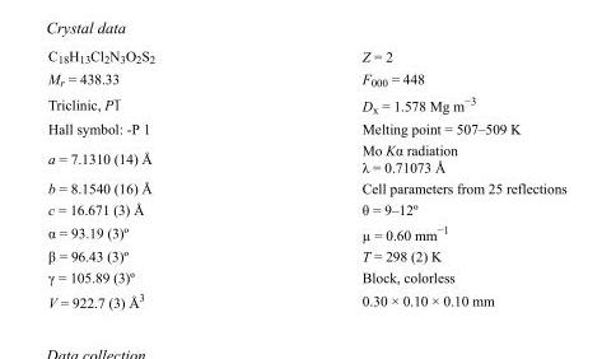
<table><tbody><tr><td>C<sub>18</sub>H<sub>13</sub>Cl<sub>2</sub>N<sub>3</sub>O<sub>2</sub>S<sub>2</sub></td><td>Z = 2</td></tr><tr><td>M<sub>r</sub> = 438.33</td><td>F<sub>000</sub> = 448</td></tr><tr><td>Triclinic, P1</td><td>D<sub>x</sub> = 1.578 Mg m<sup>−3</sup></td></tr><tr><td>Hall symbol: -P 1</td><td>Melting point = 507–509 K</td></tr><tr><td>a = 7.1310 (14) Å</td><td>Mo Kα radiation λ = 0.71073 Å</td></tr><tr><td>b = 8.1540 (16) Å</td><td>Cell parameters from 25 reflections</td></tr><tr><td>c = 16.671 (3) Å</td><td>θ = 9–12º</td></tr><tr><td>α = 93.19 (3)º</td><td>µ = 0.60 mm<sup>−1</sup></td></tr><tr><td>β = 96.43 (3)º</td><td>T = 298 (2) K</td></tr><tr><td>γ = 105.89 (3)º</td><td>Block, colorless</td></tr><tr><td>V = 922.7 (3) Å<sup>3</sup></td><td>0.30 × 0.10 × 0.10 mm</td></tr></tbody></table>